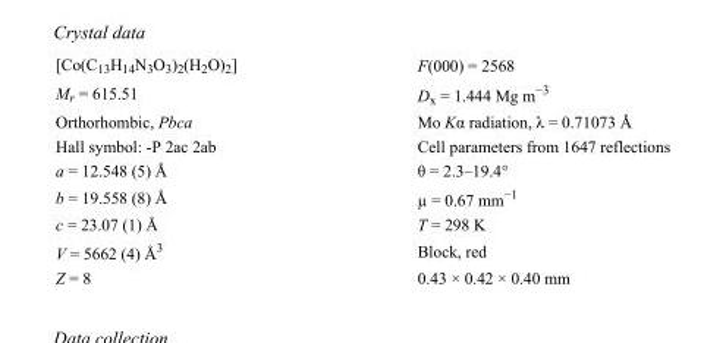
<table><tbody><tr><td>[Co(C<sub>13</sub>H<sub>14</sub>N<sub>3</sub>O<sub>3</sub>)<sub>2</sub>(H<sub>2</sub>O)<sub>2</sub>]</td><td>F(000) = 2568</td></tr><tr><td>M<sub>r</sub> = 615.51</td><td>D<sub>x</sub> = 1.444 Mg m<sup>−3</sup></td></tr><tr><td>Orthorhombic, Pbca</td><td>Mo Kα radiation, λ = 0.71073 Å</td></tr><tr><td>Hall symbol: -P 2ac 2ab</td><td>Cell parameters from 1647 reflections</td></tr><tr><td>a = 12.548 (5) Å</td><td>θ = 2.3–19.4°</td></tr><tr><td>b = 19.558 (8) Å</td><td>µ = 0.67 mm<sup>−1</sup></td></tr><tr><td>c = 23.07 (1) Å</td><td>T = 298 K</td></tr><tr><td>V = 5662 (4) Å<sup>3</sup></td><td>Block, red</td></tr><tr><td>Z = 8</td><td>0.43 × 0.42 × 0.40 mm</td></tr></tbody></table>